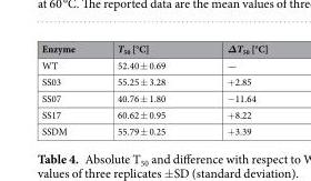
<table><thead><tr><td>Enzyme</td><td>T<sub>50</sub> [°C]</td><td>ΔT<sub>50</sub> [°C]</td></tr></thead><tbody><tr><td>WT</td><td>52.40 ± 0.69</td><td>—</td></tr><tr><td>SS03</td><td>55.25 ± 3.28</td><td>+2.85</td></tr><tr><td>SS07</td><td>40.76 ± 1.80</td><td>−11.64</td></tr><tr><td>SS17</td><td>60.62 ± 0.95</td><td>+8.22</td></tr><tr><td>SSDM</td><td>55.79 ± 0.25</td><td>+3.39</td></tr></tbody></table>